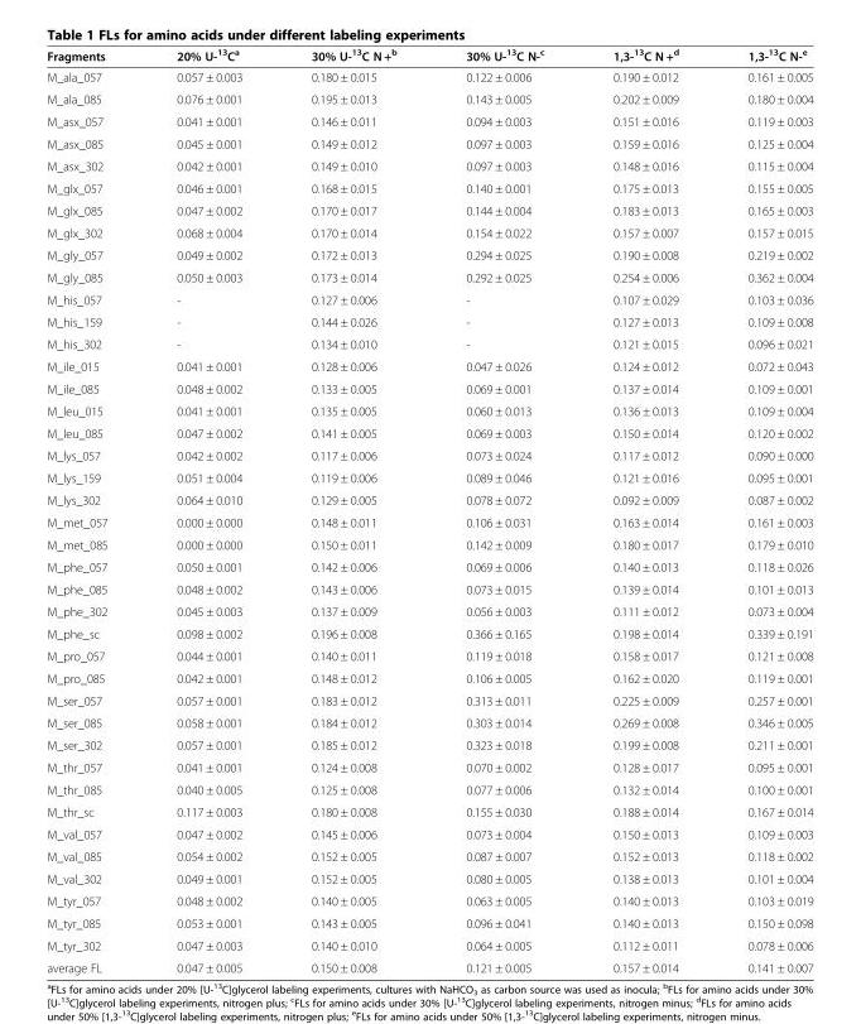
<table><thead><tr><td>Fragments</td><td>20% U-<sup>13</sup>C<sup>a</sup></td><td>30% U-<sup>13</sup>C N +<sup>b</sup></td><td>30% U-<sup>13</sup>C N-<sup>c</sup></td><td>1,3-<sup>13</sup>C N +<sup>d</sup></td><td>1,3-<sup>13</sup>C N-<sup>e</sup></td></tr></thead><tbody><tr><td>M_ala_057</td><td>0.057 ± 0.003</td><td>0.180 ± 0.015</td><td>0.122 ± 0.006</td><td>0.190 ± 0.012</td><td>0.161 ± 0.005</td></tr><tr><td>M_ala_085</td><td>0.076 ± 0.001</td><td>0.195 ± 0.013</td><td>0.143 ± 0.005</td><td>0.202 ± 0.009</td><td>0.180 ± 0.004</td></tr><tr><td>M_asx_057</td><td>0.041 ± 0.001</td><td>0.146 ± 0.011</td><td>0.094 ± 0.003</td><td>0.151 ± 0.016</td><td>0.119 ± 0.003</td></tr><tr><td>M_asx_085</td><td>0.045 ± 0.001</td><td>0.149 ± 0.012</td><td>0.097 ± 0.003</td><td>0.159 ± 0.016</td><td>0.125 ± 0.004</td></tr><tr><td>M_asx_302</td><td>0.042 ± 0.001</td><td>0.149 ± 0.010</td><td>0.097 ± 0.003</td><td>0.148 ± 0.016</td><td>0.115 ± 0.004</td></tr><tr><td>M_glx_057</td><td>0.046 ± 0.001</td><td>0.168 ± 0.015</td><td>0.140 ± 0.001</td><td>0.175 ± 0.013</td><td>0.155 ± 0.005</td></tr><tr><td>M_glx_085</td><td>0.047 ± 0.002</td><td>0.170 ± 0.017</td><td>0.144 ± 0.004</td><td>0.183 ± 0.013</td><td>0.165 ± 0.003</td></tr><tr><td>M_glx_302</td><td>0.068 ± 0.004</td><td>0.170 ± 0.014</td><td>0.154 ± 0.022</td><td>0.157 ± 0.007</td><td>0.157 ± 0.015</td></tr><tr><td>M_gly_057</td><td>0.049 ± 0.002</td><td>0.172 ± 0.013</td><td>0.294 ± 0.025</td><td>0.190 ± 0.008</td><td>0.219 ± 0.002</td></tr><tr><td>M_gly_085</td><td>0.050 ± 0.003</td><td>0.173 ± 0.014</td><td>0.292 ± 0.025</td><td>0.254 ± 0.006</td><td>0.362 ± 0.004</td></tr><tr><td>M_his_057</td><td>-</td><td>0.127 ± 0.006</td><td>-</td><td>0.107 ± 0.029</td><td>0.103 ± 0.036</td></tr><tr><td>M_his_159</td><td>-</td><td>0.144 ± 0.026</td><td>-</td><td>0.127 ± 0.013</td><td>0.109 ± 0.008</td></tr><tr><td>M_his_302</td><td>-</td><td>0.134 ± 0.010</td><td>-</td><td>0.121 ± 0.015</td><td>0.096 ± 0.021</td></tr><tr><td>M_ile_015</td><td>0.041 ± 0.001</td><td>0.128 ± 0.006</td><td>0.047 ± 0.026</td><td>0.124 ± 0.012</td><td>0.072 ± 0.043</td></tr><tr><td>M_ile_085</td><td>0.048 ± 0.002</td><td>0.133 ± 0.005</td><td>0.069 ± 0.001</td><td>0.137 ± 0.014</td><td>0.109 ± 0.001</td></tr><tr><td>M_leu_015</td><td>0.041 ± 0.001</td><td>0.135 ± 0.005</td><td>0.060 ± 0.013</td><td>0.136 ± 0.013</td><td>0.109 ± 0.004</td></tr><tr><td>M_leu_085</td><td>0.047 ± 0.002</td><td>0.141 ± 0.005</td><td>0.069 ± 0.003</td><td>0.150 ± 0.014</td><td>0.120 ± 0.002</td></tr><tr><td>M_lys_057</td><td>0.042 ± 0.002</td><td>0.117 ± 0.006</td><td>0.073 ± 0.024</td><td>0.117 ± 0.012</td><td>0.090 ± 0.000</td></tr><tr><td>M_lys_159</td><td>0.051 ± 0.004</td><td>0.119 ± 0.006</td><td>0.089 ± 0.046</td><td>0.121 ± 0.016</td><td>0.095 ± 0.001</td></tr><tr><td>M_lys_302</td><td>0.064 ± 0.010</td><td>0.129 ± 0.005</td><td>0.078 ± 0.072</td><td>0.092 ± 0.009</td><td>0.087 ± 0.002</td></tr><tr><td>M_met_057</td><td>0.000 ± 0.000</td><td>0.148 ± 0.011</td><td>0.106 ± 0.031</td><td>0.163 ± 0.014</td><td>0.161 ± 0.003</td></tr><tr><td>M_met_085</td><td>0.000 ± 0.000</td><td>0.150 ± 0.011</td><td>0.142 ± 0.009</td><td>0.180 ± 0.017</td><td>0.179 ± 0.010</td></tr><tr><td>M_phe_057</td><td>0.050 ± 0.001</td><td>0.142 ± 0.006</td><td>0.069 ± 0.006</td><td>0.140 ± 0.013</td><td>0.118 ± 0.026</td></tr><tr><td>M_phe_085</td><td>0.048 ± 0.002</td><td>0.143 ± 0.006</td><td>0.073 ± 0.015</td><td>0.139 ± 0.014</td><td>0.101 ± 0.013</td></tr><tr><td>M_phe_302</td><td>0.045 ± 0.003</td><td>0.137 ± 0.009</td><td>0.056 ± 0.003</td><td>0.111 ± 0.012</td><td>0.073 ± 0.004</td></tr><tr><td>M_phe_sc</td><td>0.098 ± 0.002</td><td>0.196 ± 0.008</td><td>0.366 ± 0.165</td><td>0.198 ± 0.014</td><td>0.339 ± 0.191</td></tr><tr><td>M_pro_057</td><td>0.044 ± 0.001</td><td>0.140 ± 0.011</td><td>0.119 ± 0.018</td><td>0.158 ± 0.017</td><td>0.121 ± 0.008</td></tr><tr><td>M_pro_085</td><td>0.042 ± 0.001</td><td>0.148 ± 0.012</td><td>0.106 ± 0.005</td><td>0.162 ± 0.020</td><td>0.119 ± 0.001</td></tr><tr><td>M_ser_057</td><td>0.057 ± 0.001</td><td>0.183 ± 0.012</td><td>0.313 ± 0.011</td><td>0.225 ± 0.009</td><td>0.257 ± 0.001</td></tr><tr><td>M_ser_085</td><td>0.058 ± 0.001</td><td>0.184 ± 0.012</td><td>0.303 ± 0.014</td><td>0.269 ± 0.008</td><td>0.346 ± 0.005</td></tr><tr><td>M_ser_302</td><td>0.057 ± 0.001</td><td>0.185 ± 0.012</td><td>0.323 ± 0.018</td><td>0.199 ± 0.008</td><td>0.211 ± 0.001</td></tr><tr><td>M_thr_057</td><td>0.041 ± 0.001</td><td>0.124 ± 0.008</td><td>0.070 ± 0.002</td><td>0.128 ± 0.017</td><td>0.095 ± 0.001</td></tr><tr><td>M_thr_085</td><td>0.040 ± 0.005</td><td>0.125 ± 0.008</td><td>0.077 ± 0.006</td><td>0.132 ± 0.014</td><td>0.100 ± 0.001</td></tr><tr><td>M_thr_sc</td><td>0.117 ± 0.003</td><td>0.180 ± 0.008</td><td>0.155 ± 0.030</td><td>0.188 ± 0.014</td><td>0.167 ± 0.014</td></tr><tr><td>M_val_057</td><td>0.047 ± 0.002</td><td>0.145 ± 0.006</td><td>0.073 ± 0.004</td><td>0.150 ± 0.013</td><td>0.109 ± 0.003</td></tr><tr><td>M_val_085</td><td>0.054 ± 0.002</td><td>0.152 ± 0.005</td><td>0.087 ± 0.007</td><td>0.152 ± 0.013</td><td>0.118 ± 0.002</td></tr><tr><td>M_val_302</td><td>0.049 ± 0.001</td><td>0.152 ± 0.005</td><td>0.080 ± 0.005</td><td>0.138 ± 0.013</td><td>0.101 ± 0.004</td></tr><tr><td>M_tyr_057</td><td>0.048 ± 0.002</td><td>0.140 ± 0.005</td><td>0.063 ± 0.005</td><td>0.140 ± 0.013</td><td>0.103 ± 0.019</td></tr><tr><td>M_tyr_085</td><td>0.053 ± 0.001</td><td>0.143 ± 0.005</td><td>0.096 ± 0.041</td><td>0.140 ± 0.013</td><td>0.150 ± 0.098</td></tr><tr><td>M_tyr_302</td><td>0.047 ± 0.003</td><td>0.140 ± 0.010</td><td>0.064 ± 0.005</td><td>0.112 ± 0.011</td><td>0.078 ± 0.006</td></tr><tr><td>average FL</td><td>0.047 ± 0.005</td><td>0.150 ± 0.008</td><td>0.121 ± 0.005</td><td>0.157 ± 0.014</td><td>0.141 ± 0.007</td></tr></tbody></table>